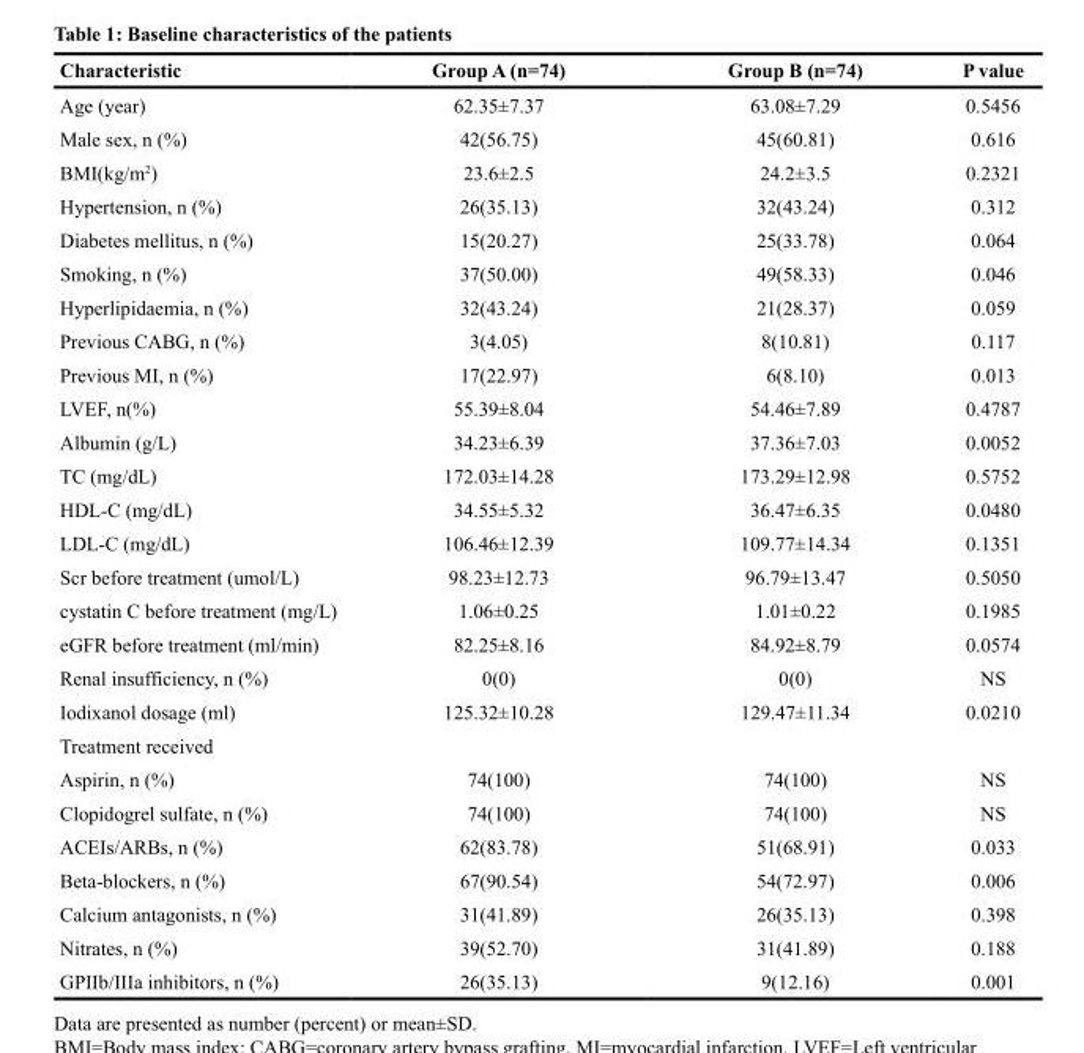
<table><thead><tr><td>Characteristic</td><td>Group A (n=74)</td><td>Group B (n=74)</td><td>P value</td></tr></thead><tbody><tr><td>Age (year)</td><td>62.35±7.37</td><td>63.08±7.29</td><td>0.5456</td></tr><tr><td>Male sex, n (%)</td><td>42(56.75)</td><td>45(60.81)</td><td>0.616</td></tr><tr><td>BMI(kg/m<sup>2</sup>)</td><td>23.6±2.5</td><td>24.2±3.5</td><td>0.2321</td></tr><tr><td>Hypertension, n (%)</td><td>26(35.13)</td><td>32(43.24)</td><td>0.312</td></tr><tr><td>Diabetes mellitus, n (%)</td><td>15(20.27)</td><td>25(33.78)</td><td>0.064</td></tr><tr><td>Smoking, n (%)</td><td>37(50.00)</td><td>49(58.33)</td><td>0.046</td></tr><tr><td>Hyperlipidaemia, n (%)</td><td>32(43.24)</td><td>21(28.37)</td><td>0.059</td></tr><tr><td>Previous CABG, n (%)</td><td>3(4.05)</td><td>8(10.81)</td><td>0.117</td></tr><tr><td>Previous MI, n (%)</td><td>17(22.97)</td><td>6(8.10)</td><td>0.013</td></tr><tr><td>LVEF, n(%)</td><td>55.39±8.04</td><td>54.46±7.89</td><td>0.4787</td></tr><tr><td>Albumin (g/L)</td><td>34.23±6.39</td><td>37.36±7.03</td><td>0.0052</td></tr><tr><td>TC (mg/dL)</td><td>172.03±14.28</td><td>173.29±12.98</td><td>0.5752</td></tr><tr><td>HDL-C (mg/dL)</td><td>34.55±5.32</td><td>36.47±6.35</td><td>0.0480</td></tr><tr><td>LDL-C (mg/dL)</td><td>106.46±12.39</td><td>109.77±14.34</td><td>0.1351</td></tr><tr><td>Scr before treatment (umol/L)</td><td>98.23±12.73</td><td>96.79±13.47</td><td>0.5050</td></tr><tr><td>cystatin C before treatment (mg/L)</td><td>1.06±0.25</td><td>1.01±0.22</td><td>0.1985</td></tr><tr><td>eGFR before treatment (ml/min)</td><td>82.25±8.16</td><td>84.92±8.79</td><td>0.0574</td></tr><tr><td>Renal insufficiency, n (%)</td><td>0(0)</td><td>0(0)</td><td>NS</td></tr><tr><td>Iodixanol dosage (ml)</td><td>125.32±10.28</td><td>129.47±11.34</td><td>0.0210</td></tr><tr><td colspan="4">Treatment received</td></tr><tr><td>Aspirin, n (%)</td><td>74(100)</td><td>74(100)</td><td>NS</td></tr><tr><td>Clopidogrel sulfate, n (%)</td><td>74(100)</td><td>74(100)</td><td>NS</td></tr><tr><td>ACEIs/ARBs, n (%)</td><td>62(83.78)</td><td>51(68.91)</td><td>0.033</td></tr><tr><td>Beta-blockers, n (%)</td><td>67(90.54)</td><td>54(72.97)</td><td>0.006</td></tr><tr><td>Calcium antagonists, n (%)</td><td>31(41.89)</td><td>26(35.13)</td><td>0.398</td></tr><tr><td>Nitrates, n (%)</td><td>39(52.70)</td><td>31(41.89)</td><td>0.188</td></tr><tr><td>GPIIb/IIIa inhibitors, n (%)</td><td>26(35.13)</td><td>9(12.16)</td><td>0.001</td></tr></tbody></table>